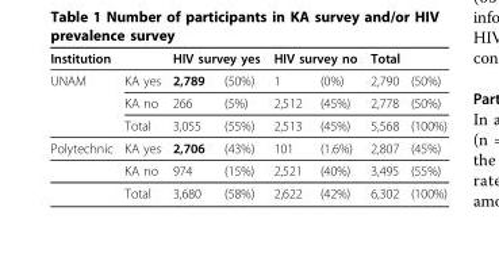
<table><thead><tr><td rowspan="2">Institution UNAM</td><td rowspan="2">KA yes</td><td colspan="2">HIV survey yes</td><td colspan="2">HIV survey no</td><td colspan="2">Total</td></tr><tr><td>2,789</td><td>(50%)</td><td>1</td><td>(0%)</td><td>2,790</td><td>(50%)</td></tr></thead><tbody><tr><td></td><td>KA no</td><td>266</td><td>(5%)</td><td>2,512</td><td>(45%)</td><td>2,778</td><td>(50%)</td></tr><tr><td></td><td>Total</td><td>3,055</td><td>(55%)</td><td>2,513</td><td>(45%)</td><td>5,568</td><td>(100%)</td></tr><tr><td rowspan="3">Polytechnic</td><td>KA yes</td><td>2,706</td><td>(43%)</td><td>101</td><td>(1.6%)</td><td>2,807</td><td>(45%)</td></tr><tr><td>KA no</td><td>974</td><td>(15%)</td><td>2,521</td><td>(40%)</td><td>3,495</td><td>(55%)</td></tr><tr><td>Total</td><td>3,680</td><td>(58%)</td><td>2,622</td><td>(42%)</td><td>6,302</td><td>(100%)</td></tr></tbody></table>